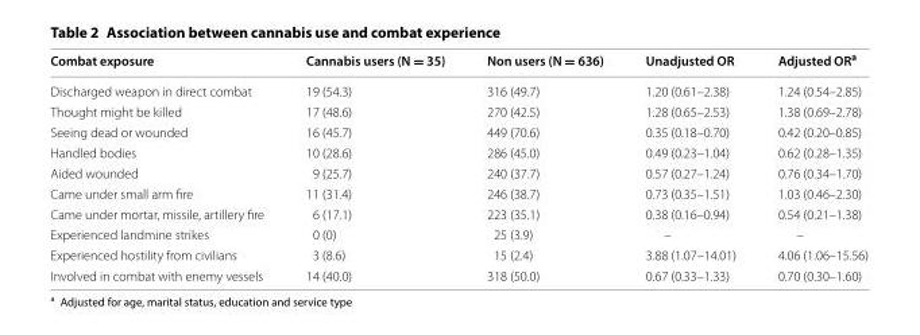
<table><thead><tr><td>Combat exposure</td><td>Cannabis users (N = 35)</td><td>Non users (N = 636)</td><td>Unadjusted OR</td><td>Adjusted OR<sup>a</sup></td></tr></thead><tbody><tr><td>Discharged weapon in direct combat</td><td>19 (54.3)</td><td>316 (49.7)</td><td>1.20 (0.61–2.38)</td><td>1.24 (0.54–2.85)</td></tr><tr><td>Thought might be killed</td><td>17 (48.6)</td><td>270 (42.5)</td><td>1.28 (0.65–2.53)</td><td>1.38 (0.69–2.78)</td></tr><tr><td>Seeing dead or wounded</td><td>16 (45.7)</td><td>449 (70.6)</td><td>0.35 (0.18–0.70)</td><td>0.42 (0.20–0.85)</td></tr><tr><td>Handled bodies</td><td>10 (28.6)</td><td>286 (45.0)</td><td>0.49 (0.23–1.04)</td><td>0.62 (0.28–1.35)</td></tr><tr><td>Aided wounded</td><td>9 (25.7)</td><td>240 (37.7)</td><td>0.57 (0.27–1.24)</td><td>0.76 (0.34–1.70)</td></tr><tr><td>Came under small arm fire</td><td>11 (31.4)</td><td>246 (38.7)</td><td>0.73 (0.35–1.51)</td><td>1.03 (0.46–2.30)</td></tr><tr><td>Came under mortar, missile, artillery fire</td><td>6 (17.1)</td><td>223 (35.1)</td><td>0.38 (0.16–0.94)</td><td>0.54 (0.21–1.38)</td></tr><tr><td>Experienced landmine strikes</td><td>0 (0)</td><td>25 (3.9)</td><td>–</td><td>–</td></tr><tr><td>Experienced hostility from civilians</td><td>3 (8.6)</td><td>15 (2.4)</td><td>3.88 (1.07–14.01)</td><td>4.06 (1.06–15.56)</td></tr><tr><td>Involved in combat with enemy vessels</td><td>14 (40.0)</td><td>318 (50.0)</td><td>0.67 (0.33–1.33)</td><td>0.70 (0.30–1.60)</td></tr></tbody></table>